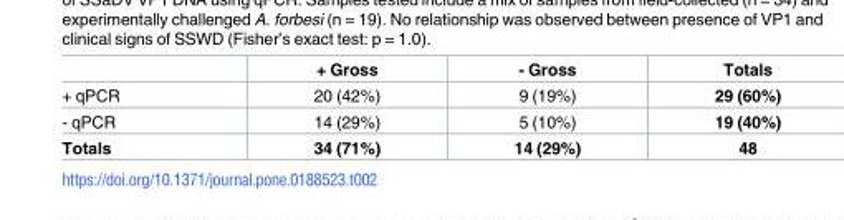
<table><thead><tr><td></td><td>+ Gross</td><td>- Gross</td><td>Totals</td></tr></thead><tbody><tr><td>+ qPCR</td><td>20 (42%)</td><td>9 (19%)</td><td>29 (60%)</td></tr><tr><td>- qPCR</td><td>14 (29%)</td><td>5 (10%)</td><td>19 (40%)</td></tr><tr><td>Totals</td><td>34 (71%)</td><td>14 (29%)</td><td>48</td></tr></tbody></table>